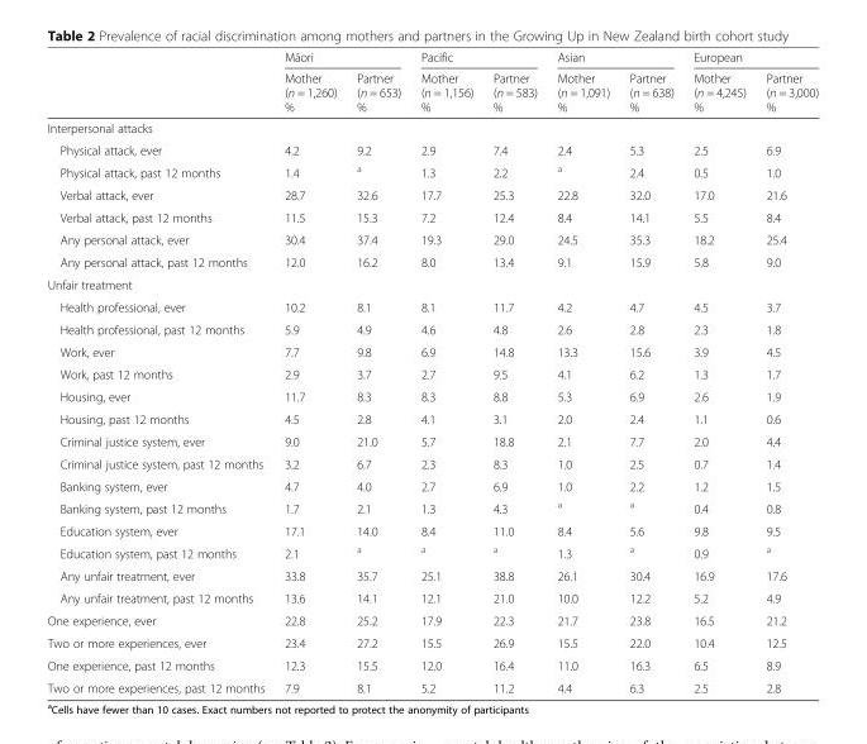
<table><thead><tr><td rowspan="2"></td><td colspan="2">Māori</td><td colspan="2">Pacific</td><td colspan="2">Asian</td><td colspan="2">European</td></tr><tr><td>Mother (n = 1,260) %</td><td>Partner (n = 653) %</td><td>Mother (n = 1,156) %</td><td>Partner (n = 583) %</td><td>Mother (n = 1,091) %</td><td>Partner (n = 638) %</td><td>Mother (n = 4,245) %</td><td>Partner (n = 3,000) %</td></tr></thead><tbody><tr><td colspan="9">Interpersonal attacks</td></tr><tr><td>Physical attack, ever</td><td>4.2</td><td>9.2</td><td>2.9</td><td>7.4</td><td>2.4</td><td>5.3</td><td>2.5</td><td>6.9</td></tr><tr><td>Physical attack, past 12 months</td><td>1.4</td><td><sup>a</sup></td><td>1.3</td><td>2.2</td><td><sup>a</sup></td><td>2.4</td><td>0.5</td><td>1.0</td></tr><tr><td>Verbal attack, ever</td><td>28.7</td><td>32.6</td><td>17.7</td><td>25.3</td><td>22.8</td><td>32.0</td><td>17.0</td><td>21.6</td></tr><tr><td>Verbal attack, past 12 months</td><td>11.5</td><td>15.3</td><td>7.2</td><td>12.4</td><td>8.4</td><td>14.1</td><td>5.5</td><td>8.4</td></tr><tr><td>Any personal attack, ever</td><td>30.4</td><td>37.4</td><td>19.3</td><td>29.0</td><td>24.5</td><td>35.3</td><td>18.2</td><td>25.4</td></tr><tr><td>Any personal attack, past 12 months</td><td>12.0</td><td>16.2</td><td>8.0</td><td>13.4</td><td>9.1</td><td>15.9</td><td>5.8</td><td>9.0</td></tr><tr><td colspan="9">Unfair treatment</td></tr><tr><td>Health professional, ever</td><td>10.2</td><td>8.1</td><td>8.1</td><td>11.7</td><td>4.2</td><td>4.7</td><td>4.5</td><td>3.7</td></tr><tr><td>Health professional, past 12 months</td><td>5.9</td><td>4.9</td><td>4.6</td><td>4.8</td><td>2.6</td><td>2.8</td><td>2.3</td><td>1.8</td></tr><tr><td>Work, ever</td><td>7.7</td><td>9.8</td><td>6.9</td><td>14.8</td><td>13.3</td><td>15.6</td><td>3.9</td><td>4.5</td></tr><tr><td>Work, past 12 months</td><td>2.9</td><td>3.7</td><td>2.7</td><td>9.5</td><td>4.1</td><td>6.2</td><td>1.3</td><td>1.7</td></tr><tr><td>Housing, ever</td><td>11.7</td><td>8.3</td><td>8.3</td><td>8.8</td><td>5.3</td><td>6.9</td><td>2.6</td><td>1.9</td></tr><tr><td>Housing, past 12 months</td><td>4.5</td><td>2.8</td><td>4.1</td><td>3.1</td><td>2.0</td><td>2.4</td><td>1.1</td><td>0.6</td></tr><tr><td>Criminal justice system, ever</td><td>9.0</td><td>21.0</td><td>5.7</td><td>18.8</td><td>2.1</td><td>7.7</td><td>2.0</td><td>4.4</td></tr><tr><td>Criminal justice system, past 12 months</td><td>3.2</td><td>6.7</td><td>2.3</td><td>8.3</td><td>1.0</td><td>2.5</td><td>0.7</td><td>1.4</td></tr><tr><td>Banking system, ever</td><td>4.7</td><td>4.0</td><td>2.7</td><td>6.9</td><td>1.0</td><td>2.2</td><td>1.2</td><td>1.5</td></tr><tr><td>Banking system, past 12 months</td><td>1.7</td><td>2.1</td><td>1.3</td><td>4.3</td><td><sup>a</sup></td><td><sup>a</sup></td><td>0.4</td><td>0.8</td></tr><tr><td>Education system, ever</td><td>17.1</td><td>14.0</td><td>8.4</td><td>11.0</td><td>8.4</td><td>5.6</td><td>9.8</td><td>9.5</td></tr><tr><td>Education system, past 12 months</td><td>2.1</td><td><sup>a</sup></td><td><sup>a</sup></td><td><sup>a</sup></td><td>1.3</td><td><sup>a</sup></td><td>0.9</td><td><sup>a</sup></td></tr><tr><td>Any unfair treatment, ever</td><td>33.8</td><td>35.7</td><td>25.1</td><td>38.8</td><td>26.1</td><td>30.4</td><td>16.9</td><td>17.6</td></tr><tr><td>Any unfair treatment, past 12 months</td><td>13.6</td><td>14.1</td><td>12.1</td><td>21.0</td><td>10.0</td><td>12.2</td><td>5.2</td><td>4.9</td></tr><tr><td>One experience, ever</td><td>22.8</td><td>25.2</td><td>17.9</td><td>22.3</td><td>21.7</td><td>23.8</td><td>16.5</td><td>21.2</td></tr><tr><td>Two or more experiences, ever</td><td>23.4</td><td>27.2</td><td>15.5</td><td>26.9</td><td>15.5</td><td>22.0</td><td>10.4</td><td>12.5</td></tr><tr><td>One experience, past 12 months</td><td>12.3</td><td>15.5</td><td>12.0</td><td>16.4</td><td>11.0</td><td>16.3</td><td>6.5</td><td>8.9</td></tr><tr><td>Two or more experiences, past 12 months</td><td>7.9</td><td>8.1</td><td>5.2</td><td>11.2</td><td>4.4</td><td>6.3</td><td>2.5</td><td>2.8</td></tr></tbody></table>